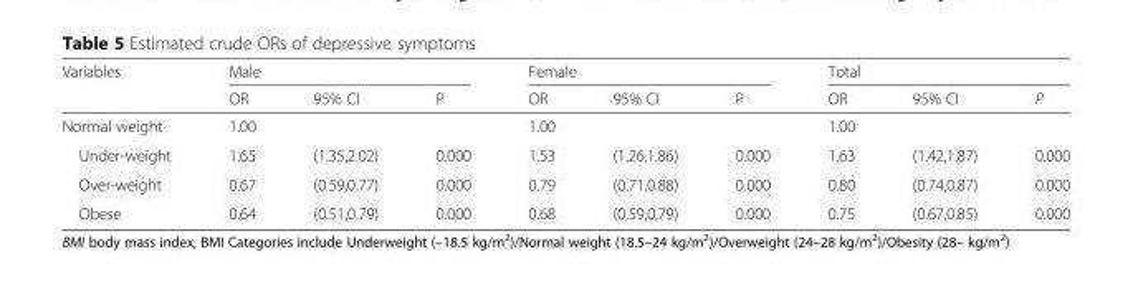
<table><thead><tr><td rowspan="2">Variables</td><td colspan="3">Male</td><td colspan="3">Female</td><td colspan="3">Total</td></tr><tr><td>OR</td><td>95% CI</td><td>P</td><td>OR</td><td>95% CI</td><td>P</td><td>OR</td><td>95% CI</td><td>P</td></tr></thead><tbody><tr><td>Normal weight</td><td>1.00</td><td></td><td></td><td>1.00</td><td></td><td></td><td>1.00</td><td></td><td></td></tr><tr><td>Under-weight</td><td>1.65</td><td>(1.35,2.02)</td><td>0.000</td><td>1.53</td><td>(1.26,1.86)</td><td>0.000</td><td>1.63</td><td>(1.42,1.87)</td><td>0.000</td></tr><tr><td>Over-weight</td><td>0.67</td><td>(0.59,0.77)</td><td>0.000</td><td>0.79</td><td>(0.71,0.88)</td><td>0.000</td><td>0.80</td><td>(0.74,0.87)</td><td>0.000</td></tr><tr><td>Obese</td><td>0.64</td><td>(0.51,0.79)</td><td>0.000</td><td>0.68</td><td>(0.59,0.79)</td><td>0.000</td><td>0.75</td><td>(0.67,0.85)</td><td>0.000</td></tr></tbody></table>